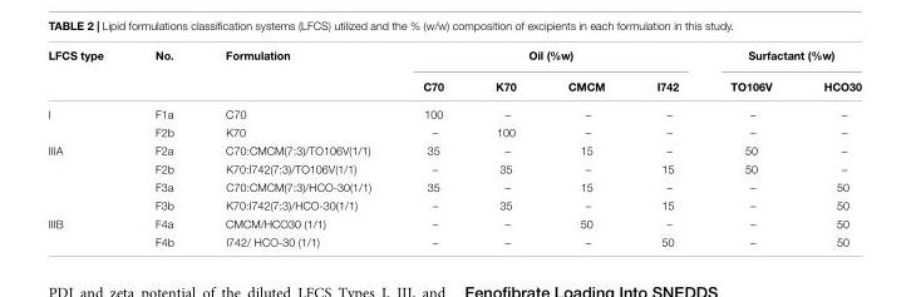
<table><thead><tr><td rowspan="2">LFCS type</td><td rowspan="2">No.</td><td rowspan="2">Formulation</td><td colspan="4">Oil (%w)</td><td colspan="2">Surfactant (%w)</td></tr><tr><td>C70</td><td>K70</td><td>CMCM</td><td>I742</td><td>TO106V</td><td>HCO30</td></tr></thead><tbody><tr><td rowspan="2">I</td><td>F1a</td><td>C70</td><td>100</td><td>–</td><td>–</td><td>–</td><td>–</td><td>–</td></tr><tr><td>F2b</td><td>K70</td><td>–</td><td>100</td><td>–</td><td>–</td><td>–</td><td>–</td></tr><tr><td rowspan="4">IIIA</td><td>F2a</td><td>C70:CMCM(7:3)/TO106V(1/1)</td><td>35</td><td>–</td><td>15</td><td>–</td><td>50</td><td>–</td></tr><tr><td>F2b</td><td>K70:I742(7:3)/TO106V(1/1)</td><td>–</td><td>35</td><td>–</td><td>15</td><td>50</td><td>–</td></tr><tr><td>F3a</td><td>C70:CMCM(7:3)/HCO-30(1/1)</td><td>35</td><td>–</td><td>15</td><td>–</td><td>–</td><td>50</td></tr><tr><td>F3b</td><td>K70:I742(7:3)/HCO-30(1/1)</td><td>–</td><td>35</td><td>–</td><td>15</td><td>–</td><td>50</td></tr><tr><td rowspan="2">IIIB</td><td>F4a</td><td>CMCM/HCO30 (1/1)</td><td>–</td><td>–</td><td>50</td><td>–</td><td>–</td><td>50</td></tr><tr><td>F4b</td><td>I742/ HCO-30 (1/1)</td><td>–</td><td>–</td><td>–</td><td>50</td><td>–</td><td>50</td></tr></tbody></table>